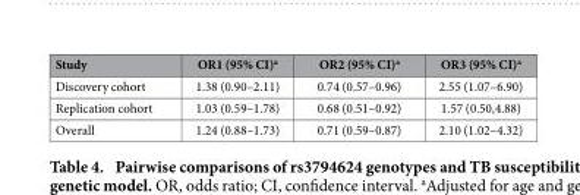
<table><thead><tr><td>Study</td><td>OR1 (95% CI)<sup>a</sup></td><td>OR2 (95% CI)<sup>a</sup></td><td>OR3 (95% CI)<sup>a</sup></td></tr></thead><tbody><tr><td>Discovery cohort</td><td>1.38 (0.90–2.11)</td><td>0.74 (0.57–0.96)</td><td>2.55 (1.07–6.90)</td></tr><tr><td>Replication cohort</td><td>1.03 (0.59–1.78)</td><td>0.68 (0.51–0.92)</td><td>1.57 (0.50,4.88)</td></tr><tr><td>Overall</td><td>1.24 (0.88–1.73)</td><td>0.71 (0.59–0.87)</td><td>2.10 (1.02–4.32)</td></tr></tbody></table>